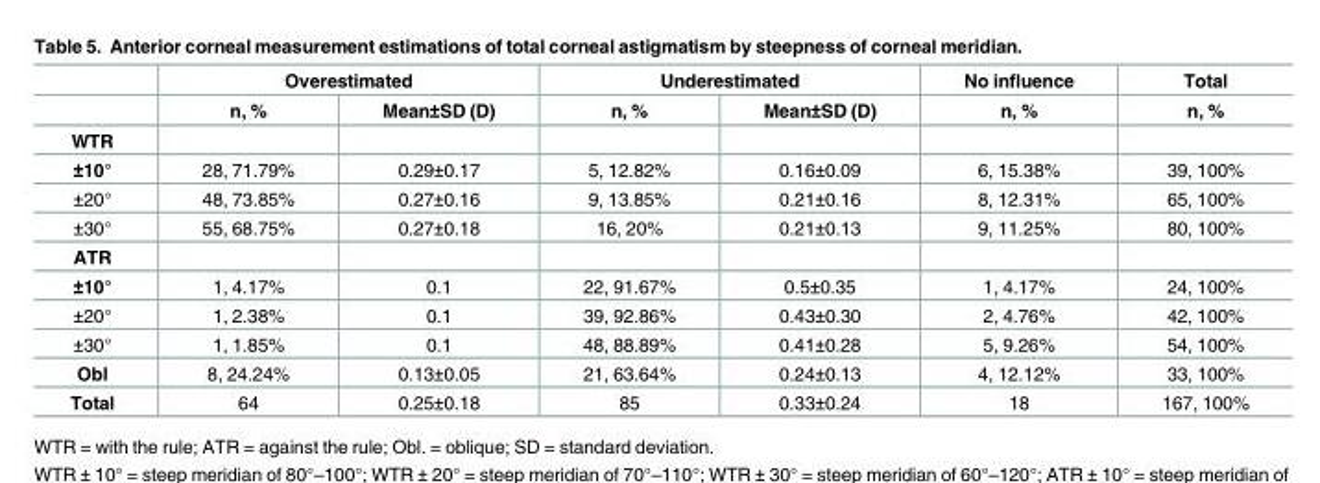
<table><thead><tr><td rowspan="2"></td><td colspan="2">Overestimated</td><td colspan="2">Underestimated</td><td rowspan="2">No influence n, %</td><td rowspan="2">Total n, %</td></tr><tr><td>n, %</td><td>Mean±SD (D)</td><td>n, %</td><td>Mean±SD (D)</td></tr></thead><tbody><tr><td colspan="7">WTR</td></tr><tr><td>±10°</td><td>28, 71.79%</td><td>0.29±0.17</td><td>5, 12.82%</td><td>0.16±0.09</td><td>6, 15.38%</td><td>39, 100%</td></tr><tr><td>±20°</td><td>48, 73.85%</td><td>0.27±0.16</td><td>9, 13.85%</td><td>0.21±0.16</td><td>8, 12.31%</td><td>65, 100%</td></tr><tr><td>±30°</td><td>55, 68.75%</td><td>0.27±0.18</td><td>16, 20%</td><td>0.21±0.13</td><td>9, 11.25%</td><td>80, 100%</td></tr><tr><td colspan="7">ATR</td></tr><tr><td>±10°</td><td>1, 4.17%</td><td>0.1</td><td>22, 91.67%</td><td>0.5±0.35</td><td>1, 4.17%</td><td>24, 100%</td></tr><tr><td>±20°</td><td>1, 2.38%</td><td>0.1</td><td>39, 92.86%</td><td>0.43±0.30</td><td>2, 4.76%</td><td>42, 100%</td></tr><tr><td>±30°</td><td>1, 1.85%</td><td>0.1</td><td>48, 88.89%</td><td>0.41±0.28</td><td>5, 9.26%</td><td>54, 100%</td></tr><tr><td>Obl</td><td>8, 24.24%</td><td>0.13±0.05</td><td>21, 63.64%</td><td>0.24±0.13</td><td>4, 12.12%</td><td>33, 100%</td></tr><tr><td>Total</td><td>64</td><td>0.25±0.18</td><td>85</td><td>0.33±0.24</td><td>18</td><td>167, 100%</td></tr></tbody></table>